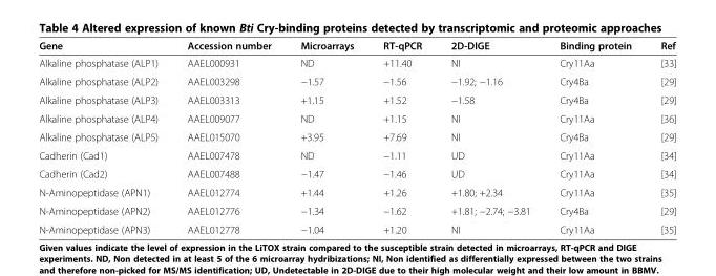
<table><thead><tr><td>Gene</td><td>Accession number</td><td>Microarrays</td><td>RT-qPCR</td><td>2D-DIGE</td><td>Binding protein</td><td>Ref</td></tr></thead><tbody><tr><td>Alkaline phosphatase (ALP1)</td><td>AAEL000931</td><td>ND</td><td>+11.40</td><td>NI</td><td>Cry11Aa</td><td>[33]</td></tr><tr><td>Alkaline phosphatase (ALP2)</td><td>AAEL003298</td><td>−1.57</td><td>−1.56</td><td>−1.92; −1.16</td><td>Cry4Ba</td><td>[29]</td></tr><tr><td>Alkaline phosphatase (ALP3)</td><td>AAEL003313</td><td>+1.15</td><td>+1.52</td><td>−1.58</td><td>Cry4Ba</td><td>[29]</td></tr><tr><td>Alkaline phosphatase (ALP4)</td><td>AAEL009077</td><td>ND</td><td>+1.15</td><td>NI</td><td>Cry11Aa</td><td>[36]</td></tr><tr><td>Alkaline phosphatase (ALP5)</td><td>AAEL015070</td><td>+3.95</td><td>+7.69</td><td>NI</td><td>Cry4Ba</td><td>[29]</td></tr><tr><td>Cadherin (Cad1)</td><td>AAEL007478</td><td>ND</td><td>−1.11</td><td>UD</td><td>Cry11Aa</td><td>[34]</td></tr><tr><td>Cadherin (Cad2)</td><td>AAEL007488</td><td>−1.47</td><td>−1.46</td><td>UD</td><td>Cry11Aa</td><td>[34]</td></tr><tr><td>N-Aminopeptidase (APN1)</td><td>AAEL012774</td><td>+1.44</td><td>+1.26</td><td>+1.80; +2.34</td><td>Cry11Aa</td><td>[35]</td></tr><tr><td>N-Aminopeptidase (APN2)</td><td>AAEL012776</td><td>−1.34</td><td>−1.62</td><td>+1.81; −2.74; −3.81</td><td>Cry4Ba</td><td>[29]</td></tr><tr><td>N-Aminopeptidase (APN3)</td><td>AAEL012778</td><td>−1.04</td><td>+1.20</td><td>NI</td><td>Cry11Aa</td><td>[35]</td></tr></tbody></table>